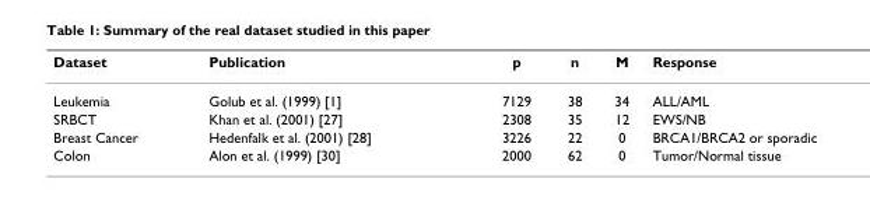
<table><thead><tr><td>Dataset</td><td>Publication</td><td>p</td><td>n</td><td>M</td><td>Response</td></tr></thead><tbody><tr><td>Leukemia</td><td>Golub et al. (1999) [1]</td><td>7129</td><td>38</td><td>34</td><td>ALL/AML</td></tr><tr><td>SRBCT</td><td>Khan et al. (2001) [27]</td><td>2308</td><td>35</td><td>12</td><td>EWS/NB</td></tr><tr><td>Breast Cancer</td><td>Hedenfalk et al. (2001) [28]</td><td>3226</td><td>22</td><td>0</td><td>BRCA1/BRCA2 or sporadic</td></tr><tr><td>Colon</td><td>Alon et al. (1999) [30]</td><td>2000</td><td>62</td><td>0</td><td>Tumor/Normal tissue</td></tr></tbody></table>